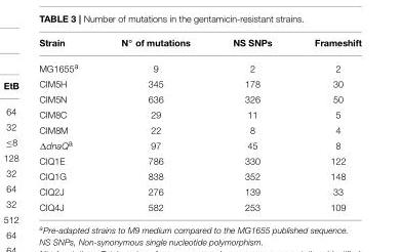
<table><thead><tr><td>Strain</td><td>N◦ of mutations</td><td>NS SNPs</td><td>Frameshift</td></tr></thead><tbody><tr><td>MG1655<sup>a</sup></td><td>9</td><td>2</td><td>2</td></tr><tr><td>CIM5H</td><td>345</td><td>178</td><td>30</td></tr><tr><td>CIM5N</td><td>636</td><td>326</td><td>50</td></tr><tr><td>CIM8C</td><td>29</td><td>11</td><td>5</td></tr><tr><td>CIM8M</td><td>22</td><td>8</td><td>4</td></tr><tr><td>ΔdnaQ<sup>a</sup></td><td>97</td><td>45</td><td>8</td></tr><tr><td>CIQ1E</td><td>786</td><td>330</td><td>122</td></tr><tr><td>CIQ1G</td><td>838</td><td>352</td><td>148</td></tr><tr><td>CIQ2J</td><td>276</td><td>139</td><td>33</td></tr><tr><td>CIQ4J</td><td>582</td><td>253</td><td>109</td></tr></tbody></table>